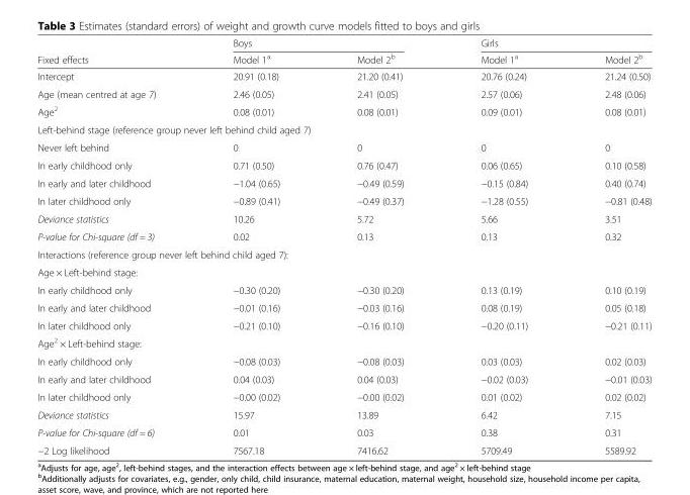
<table><thead><tr><td rowspan="2">Fixed effects</td><td colspan="2">Boys</td><td colspan="2">Girls</td></tr><tr><td>Model 1<sup>a</sup></td><td>Model 2<sup>b</sup></td><td>Model 1<sup>a</sup></td><td>Model 2<sup>b</sup></td></tr></thead><tbody><tr><td>Intercept</td><td>20.91 (0.18)</td><td>21.20 (0.41)</td><td>20.76 (0.24)</td><td>21.24 (0.50)</td></tr><tr><td>Age (mean centred at age 7)</td><td>2.46 (0.05)</td><td>2.41 (0.05)</td><td>2.57 (0.06)</td><td>2.48 (0.06)</td></tr><tr><td>Age<sup>2</sup></td><td>0.08 (0.01)</td><td>0.08 (0.01)</td><td>0.09 (0.01)</td><td>0.08 (0.01)</td></tr><tr><td colspan="5">Left-behind stage (reference group never left behind child aged 7)</td></tr><tr><td>Never left behind</td><td>0</td><td>0</td><td>0</td><td>0</td></tr><tr><td>In early childhood only</td><td>0.71 (0.50)</td><td>0.76 (0.47)</td><td>0.06 (0.65)</td><td>0.10 (0.58)</td></tr><tr><td>In early and later childhood</td><td>−1.04 (0.65)</td><td>−0.49 (0.59)</td><td>−0.15 (0.84)</td><td>0.40 (0.74)</td></tr><tr><td>In later childhood only</td><td>−0.89 (0.41)</td><td>−0.49 (0.37)</td><td>−1.28 (0.55)</td><td>−0.81 (0.48)</td></tr><tr><td>Deviance statistics</td><td>10.26</td><td>5.72</td><td>5.66</td><td>3.51</td></tr><tr><td>P-value for Chi-square (df = 3)</td><td>0.02</td><td>0.13</td><td>0.13</td><td>0.32</td></tr><tr><td colspan="5">Interactions (reference group never left behind child aged 7):</td></tr><tr><td colspan="5">Age × Left-behind stage:</td></tr><tr><td>In early childhood only</td><td>−0.30 (0.20)</td><td>−0.30 (0.20)</td><td>0.13 (0.19)</td><td>0.10 (0.19)</td></tr><tr><td>In early and later childhood</td><td>−0.01 (0.16)</td><td>−0.03 (0.16)</td><td>0.08 (0.19)</td><td>0.05 (0.18)</td></tr><tr><td>In later childhood only</td><td>−0.21 (0.10)</td><td>−0.16 (0.10)</td><td>−0.20 (0.11)</td><td>−0.21 (0.11)</td></tr><tr><td colspan="5">Age<sup>2</sup> × Left-behind stage:</td></tr><tr><td>In early childhood only</td><td>−0.08 (0.03)</td><td>−0.08 (0.03)</td><td>0.03 (0.03)</td><td>0.02 (0.03)</td></tr><tr><td>In early and later childhood</td><td>0.04 (0.03)</td><td>0.04 (0.03)</td><td>−0.02 (0.03)</td><td>−0.01 (0.03)</td></tr><tr><td>In later childhood only</td><td>−0.00 (0.02)</td><td>−0.00 (0.02)</td><td>0.01 (0.02)</td><td>0.02 (0.02)</td></tr><tr><td>Deviance statistics</td><td>15.97</td><td>13.89</td><td>6.42</td><td>7.15</td></tr><tr><td>P-value for Chi-square (df = 6)</td><td>0.01</td><td>0.03</td><td>0.38</td><td>0.31</td></tr><tr><td>−2 Log likelihood</td><td>7567.18</td><td>7416.62</td><td>5709.49</td><td>5589.92</td></tr></tbody></table>